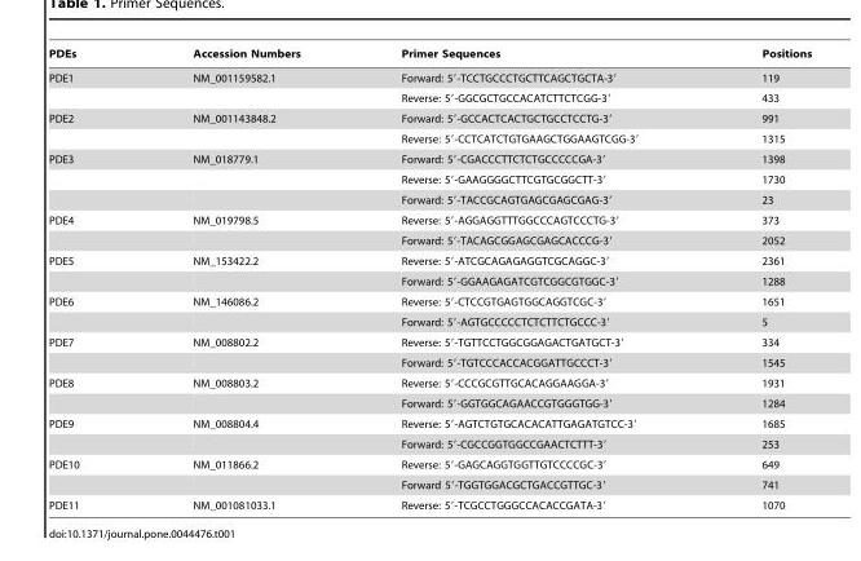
<table><thead><tr><td>PDEs</td><td>Accession Numbers</td><td>Primer Sequences</td><td>Positions</td></tr></thead><tbody><tr><td rowspan="2">PDE1</td><td>NM_001159582.1</td><td>Forward: 5′-TCCTGCCCTGCTTCAGCTGCTA-3′</td><td>119</td></tr><tr><td></td><td>Reverse: 5′-GGCGCTGCCACATCTTCTCGG-3′</td><td>433</td></tr><tr><td rowspan="2">PDE2</td><td>NM_001143848.2</td><td>Forward: 5′-GCCACTCACTGCTGCCTCCTG-3′</td><td>991</td></tr><tr><td></td><td>Reverse: 5′-CCTCATCTGTGAAGCTGGAAGTCGG-3′</td><td>1315</td></tr><tr><td rowspan="3">PDE3</td><td>NM_018779.1</td><td>Forward: 5′-CGACCCTTCTCTGCCCCCGA-3′</td><td>1398</td></tr><tr><td></td><td>Reverse: 5′-GAAGGGGCTTCGTGCGGCTT-3′</td><td>1730</td></tr><tr><td></td><td>Forward: 5′-TACCGCAGTGAGCGAGCGAG-3′</td><td>23</td></tr><tr><td rowspan="2">PDE4</td><td>NM_019798.5</td><td>Reverse: 5′-AGGAGGTTTGGCCCAGTCCCTG-3′</td><td>373</td></tr><tr><td></td><td>Forward: 5′-TACAGCGGAGCGAGCACCCG-3′</td><td>2052</td></tr><tr><td rowspan="2">PDE5</td><td>NM_153422.2</td><td>Reverse: 5′-ATCGCAGAGAGGTCGCAGGC-3′</td><td>2361</td></tr><tr><td></td><td>Forward: 5′-GGAAGAGATCGTCGGCGTGGC-3′</td><td>1288</td></tr><tr><td rowspan="2">PDE6</td><td>NM_146086.2</td><td>Reverse: 5′-CTCCGTGAGTGGCAGGTCGC-3′</td><td>1651</td></tr><tr><td></td><td>Forward: 5′-AGTGCCCCCTCTCTTCTGCCC-3′</td><td>5</td></tr><tr><td rowspan="2">PDE7</td><td>NM_008802.2</td><td>Reverse: 5′-TGTTCCTGGCGGAGACTGATGCT-3′</td><td>334</td></tr><tr><td></td><td>Forward: 5′-TGTCCCACCACGGATTGCCCT-3′</td><td>1545</td></tr><tr><td rowspan="2">PDE8</td><td>NM_008803.2</td><td>Reverse: 5′-CCCGCGTTGCACAGGAAGGA-3′</td><td>1931</td></tr><tr><td></td><td>Forward: 5′-GGTGGCAGAACCGTGGGTGG-3′</td><td>1284</td></tr><tr><td rowspan="2">PDE9</td><td>NM_008804.4</td><td>Reverse: 5′-AGTCTGTGCACACATTGAGATGTCC-3′</td><td>1685</td></tr><tr><td></td><td>Forward: 5′-CGCCGGTGGCCGAACTCTTT-3′</td><td>253</td></tr><tr><td rowspan="2">PDE10</td><td>NM_011866.2</td><td>Reverse: 5′-GAGCAGGTGGTTGTCCCCGC-3′</td><td>649</td></tr><tr><td></td><td>Forward 5′-TGGTGGACGCTGACCGTTGC-3′</td><td>741</td></tr><tr><td>PDE11</td><td>NM_001081033.1</td><td>Reverse: 5′-TCGCCTGGGCCACACCGATA-3′</td><td>1070</td></tr></tbody></table>